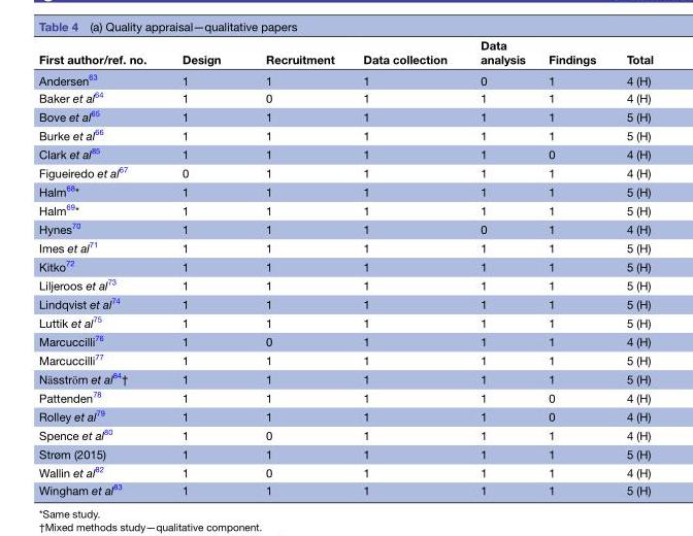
<table><thead><tr><td>First author/ref. no.</td><td>Design</td><td>Recruitment</td><td>Data collection</td><td>Data analysis</td><td>Findings</td><td>Total</td></tr></thead><tbody><tr><td>Andersen<sup>63</sup></td><td>1</td><td>1</td><td>1</td><td>0</td><td>1</td><td>4 (H)</td></tr><tr><td>Baker et al<sup>64</sup></td><td>1</td><td>0</td><td>1</td><td>1</td><td>1</td><td>4 (H)</td></tr><tr><td>Bove et al<sup>65</sup></td><td>1</td><td>1</td><td>1</td><td>1</td><td>1</td><td>5 (H)</td></tr><tr><td>Burke et al<sup>66</sup></td><td>1</td><td>1</td><td>1</td><td>1</td><td>1</td><td>5 (H)</td></tr><tr><td>Clark et al<sup>85</sup></td><td>1</td><td>1</td><td>1</td><td>1</td><td>0</td><td>4 (H)</td></tr><tr><td>Figueiredo et al<sup>67</sup></td><td>0</td><td>1</td><td>1</td><td>1</td><td>1</td><td>4 (H)</td></tr><tr><td>Halm<sup>68</sup>*</td><td>1</td><td>1</td><td>1</td><td>1</td><td>1</td><td>5 (H)</td></tr><tr><td>Halm<sup>69</sup>*</td><td>1</td><td>1</td><td>1</td><td>1</td><td>1</td><td>5 (H)</td></tr><tr><td>Hynes<sup>70</sup></td><td>1</td><td>1</td><td>1</td><td>0</td><td>1</td><td>4 (H)</td></tr><tr><td>Imes et al<sup>71</sup></td><td>1</td><td>1</td><td>1</td><td>1</td><td>1</td><td>5 (H)</td></tr><tr><td>Kitko<sup>72</sup></td><td>1</td><td>1</td><td>1</td><td>1</td><td>1</td><td>5 (H)</td></tr><tr><td>Liljeroos et al<sup>73</sup></td><td>1</td><td>1</td><td>1</td><td>1</td><td>1</td><td>5 (H)</td></tr><tr><td>Lindqvist et al<sup>74</sup></td><td>1</td><td>1</td><td>1</td><td>1</td><td>1</td><td>5 (H)</td></tr><tr><td>Luttik et al<sup>75</sup></td><td>1</td><td>1</td><td>1</td><td>1</td><td>1</td><td>5 (H)</td></tr><tr><td>Marcuccilli<sup>76</sup></td><td>1</td><td>0</td><td>1</td><td>1</td><td>1</td><td>4 (H)</td></tr><tr><td>Marcuccilli<sup>77</sup></td><td>1</td><td>1</td><td>1</td><td>1</td><td>1</td><td>5 (H)</td></tr><tr><td>Nӓsstrӧm et al<sup>84</sup>†</td><td>1</td><td>1</td><td>1</td><td>1</td><td>1</td><td>5 (H)</td></tr><tr><td>Pattenden<sup>78</sup></td><td>1</td><td>1</td><td>1</td><td>1</td><td>0</td><td>4 (H)</td></tr><tr><td>Rolley et al<sup>79</sup></td><td>1</td><td>1</td><td>1</td><td>1</td><td>0</td><td>4 (H)</td></tr><tr><td>Spence et al<sup>80</sup></td><td>1</td><td>0</td><td>1</td><td>1</td><td>1</td><td>4 (H)</td></tr><tr><td>Strøm (2015)</td><td>1</td><td>1</td><td>1</td><td>1</td><td>1</td><td>5 (H)</td></tr><tr><td>Wallin et al<sup>82</sup></td><td>1</td><td>0</td><td>1</td><td>1</td><td>1</td><td>4 (H)</td></tr><tr><td>Wingham et al<sup>83</sup></td><td>1</td><td>1</td><td>1</td><td>1</td><td>1</td><td>5 (H)</td></tr></tbody></table>